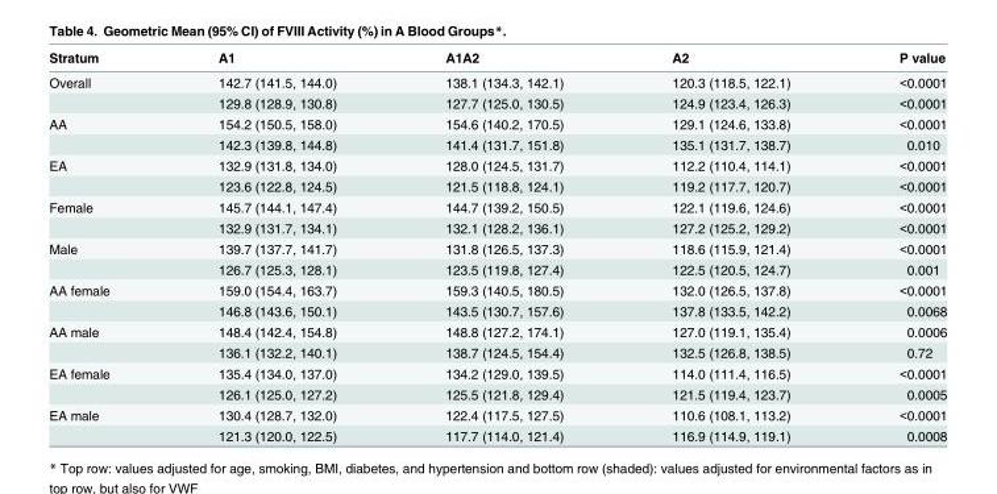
<table><thead><tr><td>Stratum</td><td>A1</td><td>A1A2</td><td>A2</td><td>P value</td></tr></thead><tbody><tr><td rowspan="2">Overall</td><td>142.7 (141.5, 144.0)</td><td>138.1 (134.3, 142.1)</td><td>120.3 (118.5, 122.1)</td><td>&lt;0.0001</td></tr><tr><td>129.8 (128.9, 130.8)</td><td>127.7 (125.0, 130.5)</td><td>124.9 (123.4, 126.3)</td><td>&lt;0.0001</td></tr><tr><td rowspan="2">AA</td><td>154.2 (150.5, 158.0)</td><td>154.6 (140.2, 170.5)</td><td>129.1 (124.6, 133.8)</td><td>&lt;0.0001</td></tr><tr><td>142.3 (139.8, 144.8)</td><td>141.4 (131.7, 151.8)</td><td>135.1 (131.7, 138.7)</td><td>0.010</td></tr><tr><td rowspan="2">EA</td><td>132.9 (131.8, 134.0)</td><td>128.0 (124.5, 131.7)</td><td>112.2 (110.4, 114.1)</td><td>&lt;0.0001</td></tr><tr><td>123.6 (122.8, 124.5)</td><td>121.5 (118.8, 124.1)</td><td>119.2 (117.7, 120.7)</td><td>&lt;0.0001</td></tr><tr><td rowspan="2">Female</td><td>145.7 (144.1, 147.4)</td><td>144.7 (139.2, 150.5)</td><td>122.1 (119.6, 124.6)</td><td>&lt;0.0001</td></tr><tr><td>132.9 (131.7, 134.1)</td><td>132.1 (128.2, 136.1)</td><td>127.2 (125.2, 129.2)</td><td>&lt;0.0001</td></tr><tr><td rowspan="2">Male</td><td>139.7 (137.7, 141.7)</td><td>131.8 (126.5, 137.3)</td><td>118.6 (115.9, 121.4)</td><td>&lt;0.0001</td></tr><tr><td>126.7 (125.3, 128.1)</td><td>123.5 (119.8, 127.4)</td><td>122.5 (120.5, 124.7)</td><td>0.001</td></tr><tr><td rowspan="2">AA female</td><td>159.0 (154.4, 163.7)</td><td>159.3 (140.5, 180.5)</td><td>132.0 (126.5, 137.8)</td><td>&lt;0.0001</td></tr><tr><td>146.8 (143.6, 150.1)</td><td>143.5 (130.7, 157.6)</td><td>137.8 (133.5, 142.2)</td><td>0.0068</td></tr><tr><td rowspan="2">AA male</td><td>148.4 (142.4, 154.8)</td><td>148.8 (127.2, 174.1)</td><td>127.0 (119.1, 135.4)</td><td>0.0006</td></tr><tr><td>136.1 (132.2, 140.1)</td><td>138.7 (124.5, 154.4)</td><td>132.5 (126.8, 138.5)</td><td>0.72</td></tr><tr><td rowspan="2">EA female</td><td>135.4 (134.0, 137.0)</td><td>134.2 (129.0, 139.5)</td><td>114.0 (111.4, 116.5)</td><td>&lt;0.0001</td></tr><tr><td>126.1 (125.0, 127.2)</td><td>125.5 (121.8, 129.4)</td><td>121.5 (119.4, 123.7)</td><td>0.0005</td></tr><tr><td rowspan="2">EA male</td><td>130.4 (128.7, 132.0)</td><td>122.4 (117.5, 127.5)</td><td>110.6 (108.1, 113.2)</td><td>&lt;0.0001</td></tr><tr><td>121.3 (120.0, 122.5)</td><td>117.7 (114.0, 121.4)</td><td>116.9 (114.9, 119.1)</td><td>0.0008</td></tr></tbody></table>